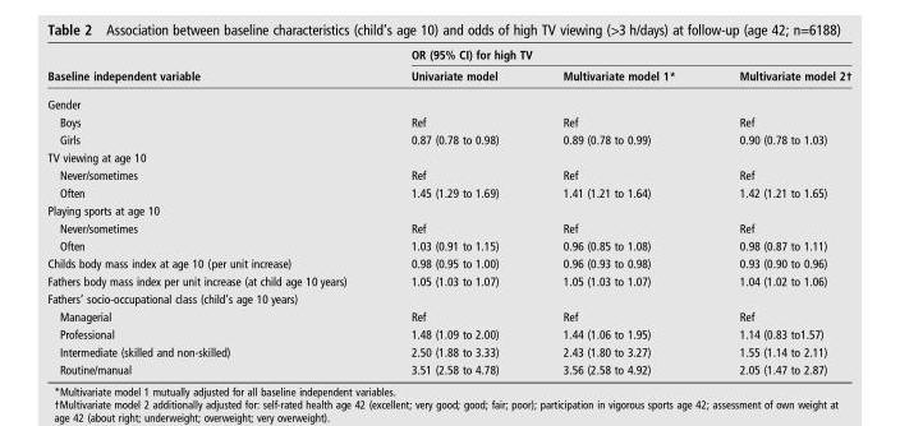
<table><thead><tr><td rowspan="2">Baseline independent variable</td><td colspan="3">OR (95% CI) for high TV</td></tr><tr><td>Univariate model</td><td>Multivariate model 1*</td><td>Multivariate model 2†</td></tr></thead><tbody><tr><td colspan="4">Gender</td></tr><tr><td>Boys</td><td>Ref</td><td>Ref</td><td>Ref</td></tr><tr><td>Girls</td><td>0.87 (0.78 to 0.98)</td><td>0.89 (0.78 to 0.99)</td><td>0.90 (0.78 to 1.03)</td></tr><tr><td colspan="4">TV viewing at age 10</td></tr><tr><td>Never/sometimes</td><td>Ref</td><td>Ref</td><td>Ref</td></tr><tr><td>Often</td><td>1.45 (1.29 to 1.69)</td><td>1.41 (1.21 to 1.64)</td><td>1.42 (1.21 to 1.65)</td></tr><tr><td colspan="4">Playing sports at age 10</td></tr><tr><td>Never/sometimes</td><td>Ref</td><td>Ref</td><td>Ref</td></tr><tr><td>Often</td><td>1.03 (0.91 to 1.15)</td><td>0.96 (0.85 to 1.08)</td><td>0.98 (0.87 to 1.11)</td></tr><tr><td>Childs body mass index at age 10 (per unit increase)</td><td>0.98 (0.95 to 1.00)</td><td>0.96 (0.93 to 0.98)</td><td>0.93 (0.90 to 0.96)</td></tr><tr><td>Fathers body mass index per unit increase (at child age 10 years)</td><td>1.05 (1.03 to 1.07)</td><td>1.05 (1.03 to 1.07)</td><td>1.04 (1.02 to 1.06)</td></tr><tr><td colspan="4">Fathers’ socio-occupational class (child’s age 10 years)</td></tr><tr><td>Managerial</td><td>Ref</td><td>Ref</td><td>Ref</td></tr><tr><td>Professional</td><td>1.48 (1.09 to 2.00)</td><td>1.44 (1.06 to 1.95)</td><td>1.14 (0.83 to1.57)</td></tr><tr><td>Intermediate (skilled and non-skilled)</td><td>2.50 (1.88 to 3.33)</td><td>2.43 (1.80 to 3.27)</td><td>1.55 (1.14 to 2.11)</td></tr><tr><td>Routine/manual</td><td>3.51 (2.58 to 4.78)</td><td>3.56 (2.58 to 4.92)</td><td>2.05 (1.47 to 2.87)</td></tr></tbody></table>